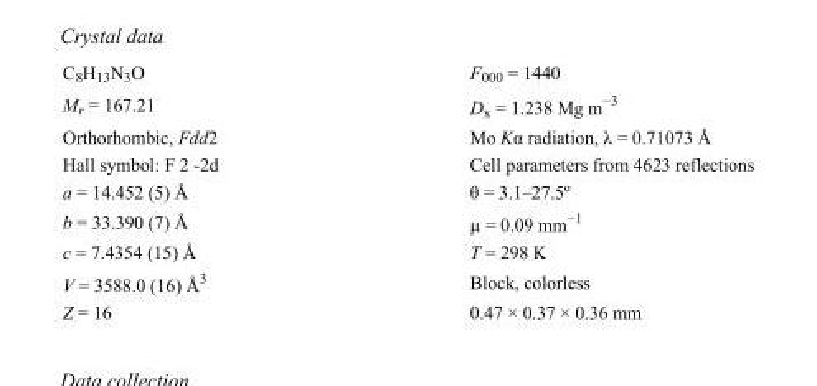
<table><tbody><tr><td>C<sub>8</sub>H<sub>13</sub>N<sub>3</sub>O</td><td>F000 = 1440</td></tr><tr><td>M<sub>r</sub> = 167.21</td><td>D<sub>x</sub> = 1.238 Mg m<sup>−3</sup></td></tr><tr><td>Orthorhombic, Fdd2</td><td>Mo Kα radiation, λ = 0.71073 Å</td></tr><tr><td>Hall symbol: F 2 -2d</td><td>Cell parameters from 4623 reflections</td></tr><tr><td>a = 14.452 (5) Å</td><td>θ = 3.1–27.5º</td></tr><tr><td>b = 33.390 (7) Å</td><td>µ = 0.09 mm<sup>−1</sup></td></tr><tr><td>c = 7.4354 (15) Å</td><td>T = 298 K</td></tr><tr><td>V = 3588.0 (16) Å<sup>3</sup></td><td>Block, colorless</td></tr><tr><td>Z = 16</td><td>0.47 × 0.37 × 0.36 mm</td></tr></tbody></table>